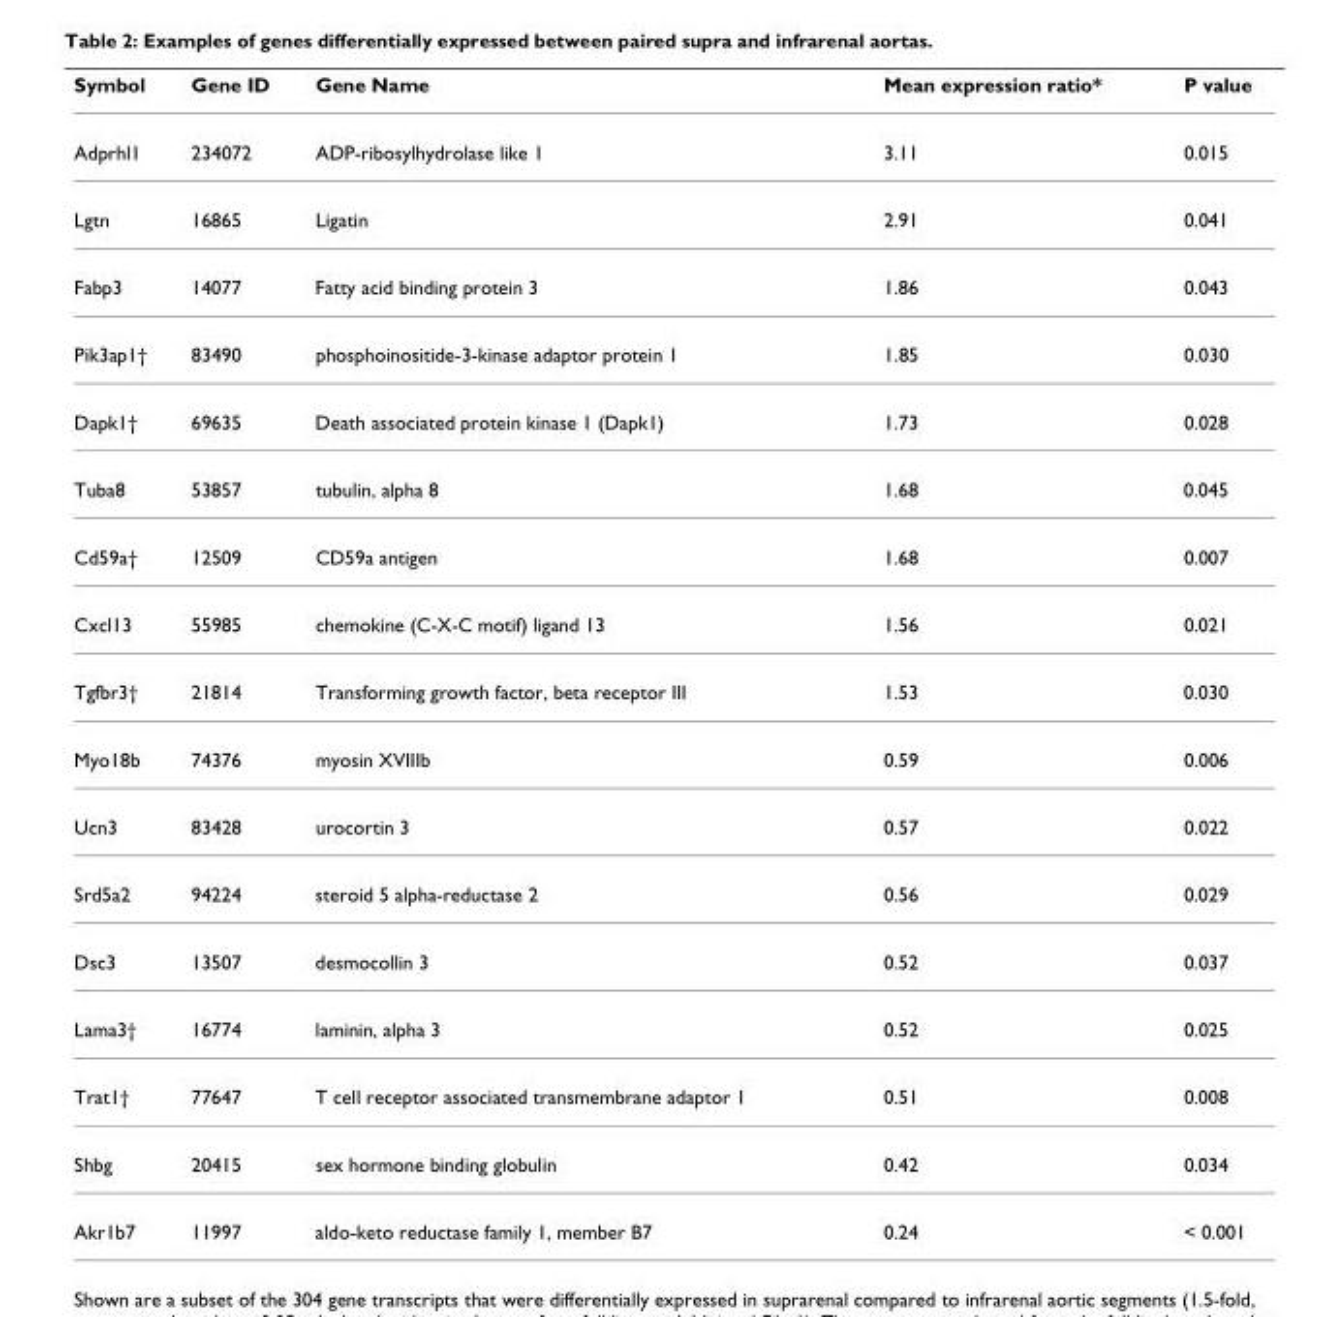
<table><thead><tr><td>Symbol</td><td>Gene ID</td><td>Gene Name</td><td>Mean expression ratio*</td><td>P value</td></tr></thead><tbody><tr><td>Adprhl1</td><td>234072</td><td>ADP-ribosylhydrolase like 1</td><td>3.11</td><td>0.015</td></tr><tr><td>Lgtn</td><td>16865</td><td>Ligatin</td><td>2.91</td><td>0.041</td></tr><tr><td>Fabp3</td><td>14077</td><td>Fatty acid binding protein 3</td><td>1.86</td><td>0.043</td></tr><tr><td>Pik3ap1†</td><td>83490</td><td>phosphoinositide-3-kinase adaptor protein 1</td><td>1.85</td><td>0.030</td></tr><tr><td>Dapk1†</td><td>69635</td><td>Death associated protein kinase 1 (Dapk1)</td><td>1.73</td><td>0.028</td></tr><tr><td>Tuba8</td><td>53857</td><td>tubulin, alpha 8</td><td>1.68</td><td>0.045</td></tr><tr><td>Cd59a†</td><td>12509</td><td>CD59a antigen</td><td>1.68</td><td>0.007</td></tr><tr><td>Cxcl13</td><td>55985</td><td>chemokine (C-X-C motif) ligand 13</td><td>1.56</td><td>0.021</td></tr><tr><td>Tgfbr3†</td><td>21814</td><td>Transforming growth factor, beta receptor III</td><td>1.53</td><td>0.030</td></tr><tr><td>Myo18b</td><td>74376</td><td>myosin XVIIIb</td><td>0.59</td><td>0.006</td></tr><tr><td>Ucn3</td><td>83428</td><td>urocortin 3</td><td>0.57</td><td>0.022</td></tr><tr><td>Srd5a2</td><td>94224</td><td>steroid 5 alpha-reductase 2</td><td>0.56</td><td>0.029</td></tr><tr><td>Dsc3</td><td>13507</td><td>desmocollin 3</td><td>0.52</td><td>0.037</td></tr><tr><td>Lama3†</td><td>16774</td><td>laminin, alpha 3</td><td>0.52</td><td>0.025</td></tr><tr><td>Trat1†</td><td>77647</td><td>T cell receptor associated transmembrane adaptor 1</td><td>0.51</td><td>0.008</td></tr><tr><td>Shbg</td><td>20415</td><td>sex hormone binding globulin</td><td>0.42</td><td>0.034</td></tr><tr><td>Akr1b7</td><td>11997</td><td>aldo-keto reductase family 1, member B7</td><td>0.24</td><td>&lt; 0.001</td></tr></tbody></table>